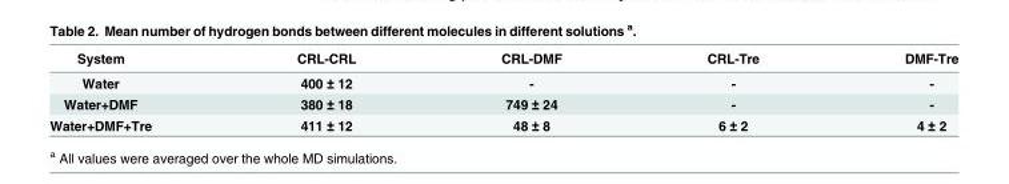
<table><thead><tr><td>System</td><td>CRL-CRL</td><td>CRL-DMF</td><td>CRL-Tre</td><td>DMF-Tre</td></tr></thead><tbody><tr><td>Water</td><td>400 ± 12</td><td>-</td><td>-</td><td>-</td></tr><tr><td>Water+DMF</td><td>380 ± 18</td><td>749 ± 24</td><td>-</td><td>-</td></tr><tr><td>Water+DMF+Tre</td><td>411 ± 12</td><td>48 ± 8</td><td>6 ± 2</td><td>4 ± 2</td></tr></tbody></table>